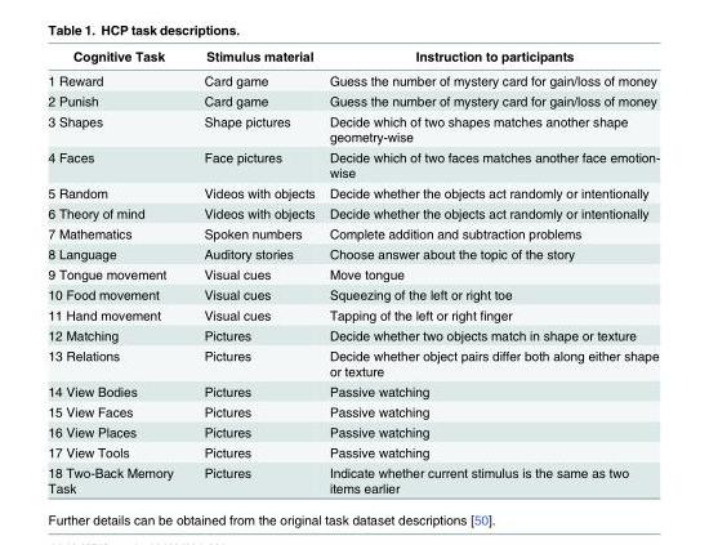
<table><thead><tr><td>Cognitive Task</td><td>Stimulus material</td><td>Instruction to participants</td></tr></thead><tbody><tr><td>1 Reward</td><td>Card game</td><td>Guess the number of mystery card for gain/loss of money</td></tr><tr><td>2 Punish</td><td>Card game</td><td>Guess the number of mystery card for gain/loss of money</td></tr><tr><td>3 Shapes</td><td>Shape pictures</td><td>Decide which of two shapes matches another shape geometry-wise</td></tr><tr><td>4 Faces</td><td>Face pictures</td><td>Decide which of two faces matches another face emotion- wise</td></tr><tr><td>5 Random</td><td>Videos with objects</td><td>Decide whether the objects act randomly or intentionally</td></tr><tr><td>6 Theory of mind</td><td>Videos with objects</td><td>Decide whether the objects act randomly or intentionally</td></tr><tr><td>7 Mathematics</td><td>Spoken numbers</td><td>Complete addition and subtraction problems</td></tr><tr><td>8 Language</td><td>Auditory stories</td><td>Choose answer about the topic of the story</td></tr><tr><td>9 Tongue movement</td><td>Visual cues</td><td>Move tongue</td></tr><tr><td>10 Food movement</td><td>Visual cues</td><td>Squeezing of the left or right toe</td></tr><tr><td>11 Hand movement</td><td>Visual cues</td><td>Tapping of the left or right finger</td></tr><tr><td>12 Matching</td><td>Pictures</td><td>Decide whether two objects match in shape or texture</td></tr><tr><td>13 Relations</td><td>Pictures</td><td>Decide whether object pairs differ both along either shape or texture</td></tr><tr><td>14 View Bodies</td><td>Pictures</td><td>Passive watching</td></tr><tr><td>15 View Faces</td><td>Pictures</td><td>Passive watching</td></tr><tr><td>16 View Places</td><td>Pictures</td><td>Passive watching</td></tr><tr><td>17 View Tools</td><td>Pictures</td><td>Passive watching</td></tr><tr><td>18 Two-Back Memory Task</td><td>Pictures</td><td>Indicate whether current stimulus is the same as two items earlier</td></tr></tbody></table>